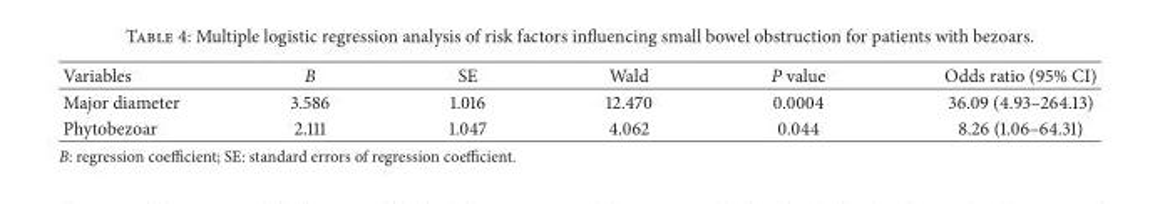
<table><thead><tr><td>Variables</td><td>B</td><td>SE</td><td>Wald</td><td>P value</td><td>Odds ratio (95% CI)</td></tr></thead><tbody><tr><td>Major diameter</td><td>3.586</td><td>1.016</td><td>12.470</td><td>0.0004</td><td>36.09 (4.93–264.13)</td></tr><tr><td>Phytobezoar</td><td>2.111</td><td>1.047</td><td>4.062</td><td>0.044</td><td>8.26 (1.06–64.31)</td></tr></tbody></table>